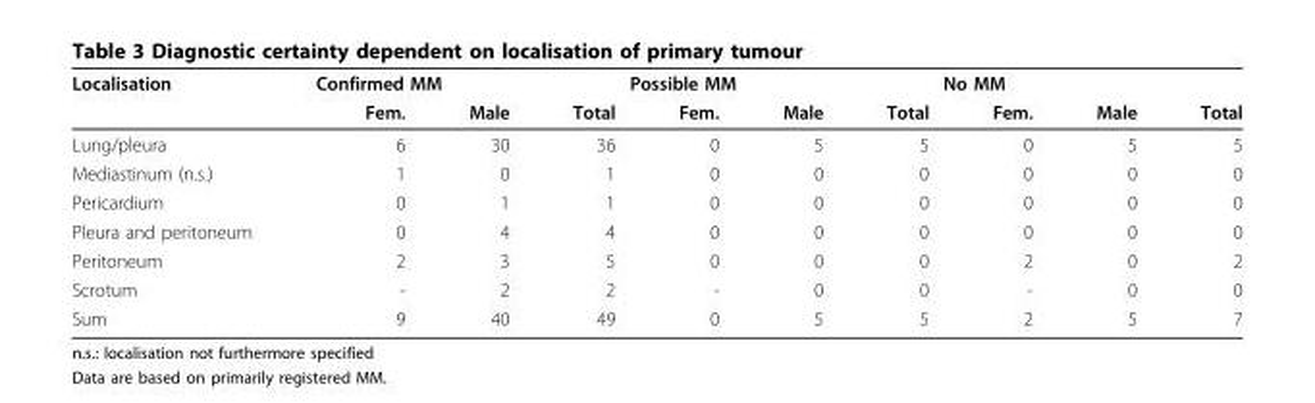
<table><thead><tr><td rowspan="2">Localisation</td><td colspan="3">Confirmed MM</td><td colspan="3">Possible MM</td><td colspan="3">No MM</td></tr><tr><td>Fem.</td><td>Male</td><td>Total</td><td>Fem.</td><td>Male</td><td>Total</td><td>Fem.</td><td>Male</td><td>Total</td></tr></thead><tbody><tr><td>Lung/pleura</td><td>6</td><td>30</td><td>36</td><td>0</td><td>5</td><td>5</td><td>0</td><td>5</td><td>5</td></tr><tr><td>Mediastinum (n.s.)</td><td>1</td><td>0</td><td>1</td><td>0</td><td>0</td><td>0</td><td>0</td><td>0</td><td>0</td></tr><tr><td>Pericardium</td><td>0</td><td>1</td><td>1</td><td>0</td><td>0</td><td>0</td><td>0</td><td>0</td><td>0</td></tr><tr><td>Pleura and peritoneum</td><td>0</td><td>4</td><td>4</td><td>0</td><td>0</td><td>0</td><td>0</td><td>0</td><td>0</td></tr><tr><td>Peritoneum</td><td>2</td><td>3</td><td>5</td><td>0</td><td>0</td><td>0</td><td>2</td><td>0</td><td>2</td></tr><tr><td>Scrotum</td><td>-</td><td>2</td><td>2</td><td>-</td><td>0</td><td>0</td><td>-</td><td>0</td><td>0</td></tr><tr><td>Sum</td><td>9</td><td>40</td><td>49</td><td>0</td><td>5</td><td>5</td><td>2</td><td>5</td><td>7</td></tr></tbody></table>